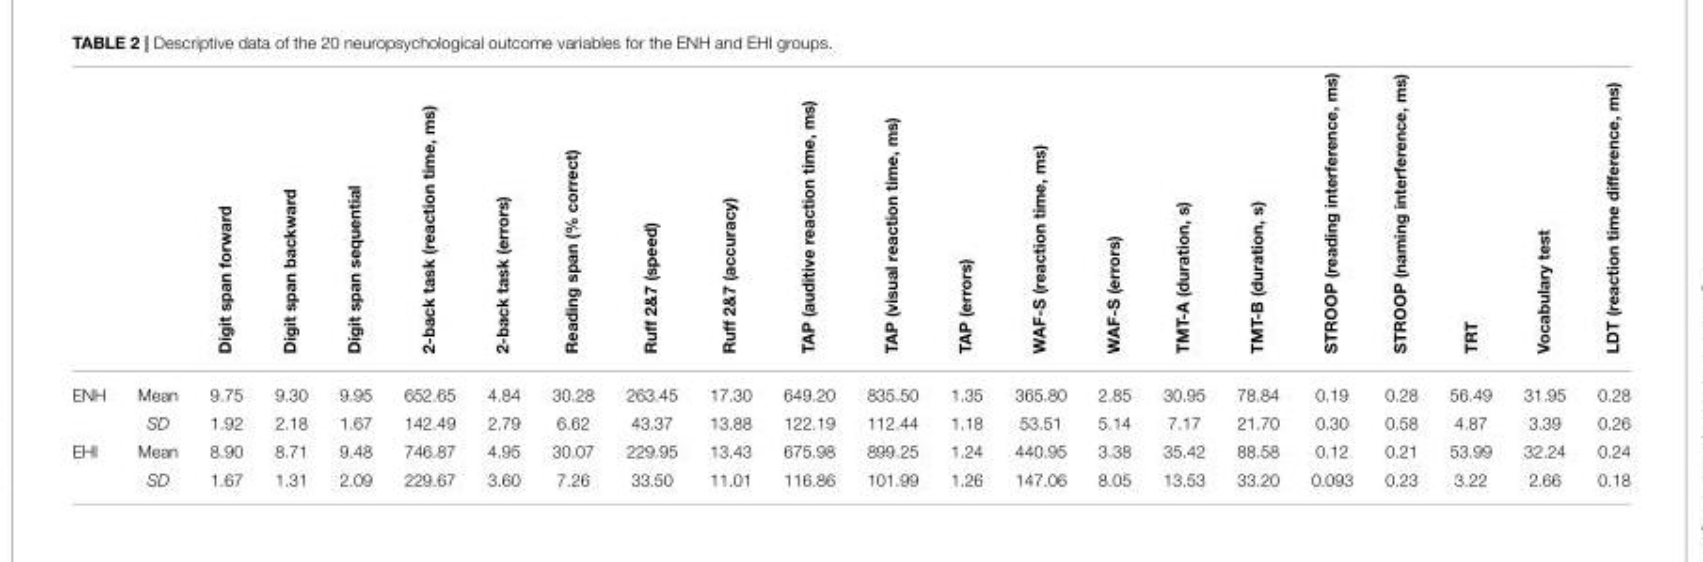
<table><thead><tr><td></td><td></td><td>Digit span forward</td><td>Digit span backward</td><td>Digit span sequential</td><td>2-back task (reaction time, ms)</td><td>2-back task (errors)</td><td>Reading span (% correct)</td><td>Ruff 2&amp;7 (speed)</td><td>Ruff 2&amp;7 (accuracy)</td><td>TAP (auditive reaction time, ms)</td><td>TAP (visual reaction time, ms)</td><td>TAP (errors)</td><td>WAF-S (reaction time, ms)</td><td>WAF-S (errors)</td><td>TMT-A (duration, s)</td><td>TMT-B (duration, s)</td><td>STROOP (reading interference, ms)</td><td>STROOP (naming interference, ms)</td><td>TRT</td><td>Vocabulary test</td><td>LDT (reaction time difference, ms)</td></tr></thead><tbody><tr><td rowspan="2">ENH</td><td>Mean</td><td>9.75</td><td>9.30</td><td>9.95</td><td>652.65</td><td>4.84</td><td>30.28</td><td>263.45</td><td>17.30</td><td>649.20</td><td>835.50</td><td>1.35</td><td>365.80</td><td>2.85</td><td>30.95</td><td>78.84</td><td>0.19</td><td>0.28</td><td>56.49</td><td>31.95</td><td>0.28</td></tr><tr><td>SD</td><td>1.92</td><td>2.18</td><td>1.67</td><td>142.49</td><td>2.79</td><td>6.62</td><td>43.37</td><td>13.88</td><td>122.19</td><td>112.44</td><td>1.18</td><td>53.51</td><td>5.14</td><td>7.17</td><td>21.70</td><td>0.30</td><td>0.58</td><td>4.87</td><td>3.39</td><td>0.26</td></tr><tr><td rowspan="2">EHI</td><td>Mean</td><td>8.90</td><td>8.71</td><td>9.48</td><td>746.87</td><td>4.95</td><td>30.07</td><td>229.95</td><td>13.43</td><td>675.98</td><td>899.25</td><td>1.24</td><td>440.95</td><td>3.38</td><td>35.42</td><td>88.58</td><td>0.12</td><td>0.21</td><td>53.99</td><td>32.24</td><td>0.24</td></tr><tr><td>SD</td><td>1.67</td><td>1.31</td><td>2.09</td><td>229.67</td><td>3.60</td><td>7.26</td><td>33.50</td><td>11.01</td><td>116.86</td><td>101.99</td><td>1.26</td><td>147.06</td><td>8.05</td><td>13.53</td><td>33.20</td><td>0.093</td><td>0.23</td><td>3.22</td><td>2.66</td><td>0.18</td></tr></tbody></table>